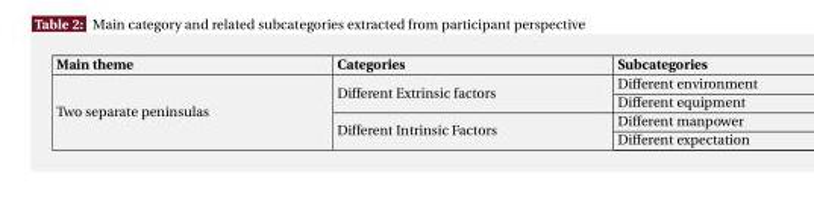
<table><thead><tr><td>Main theme</td><td>Categories</td><td>Subcategories</td></tr></thead><tbody><tr><td rowspan="4">Two separate peninsulas</td><td rowspan="2">Different Extrinsic factors</td><td>Different environment</td></tr><tr><td>Different equipment</td></tr><tr><td rowspan="2">Different Intrinsic Factors</td><td>Different manpower</td></tr><tr><td>Different expectation</td></tr></tbody></table>